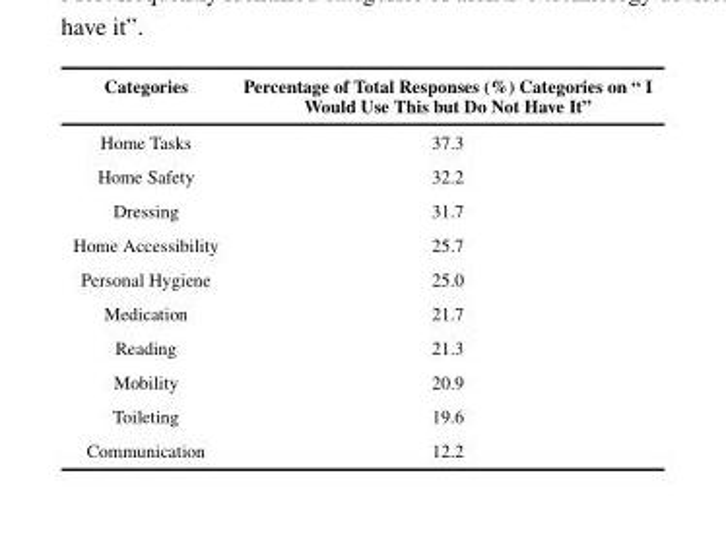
<table><thead><tr><td>Categories</td><td>Percentage of Total Responses (%) Categories on “ I Would Use This but Do Not Have It”</td></tr></thead><tbody><tr><td>Home Tasks</td><td>37.3</td></tr><tr><td>Home Safety</td><td>32.2</td></tr><tr><td>Dressing</td><td>31.7</td></tr><tr><td>Home Accessibility</td><td>25.7</td></tr><tr><td>Personal Hygiene</td><td>25.0</td></tr><tr><td>Medication</td><td>21.7</td></tr><tr><td>Reading</td><td>21.3</td></tr><tr><td>Mobility</td><td>20.9</td></tr><tr><td>Toileting</td><td>19.6</td></tr><tr><td>Communication</td><td>12.2</td></tr></tbody></table>